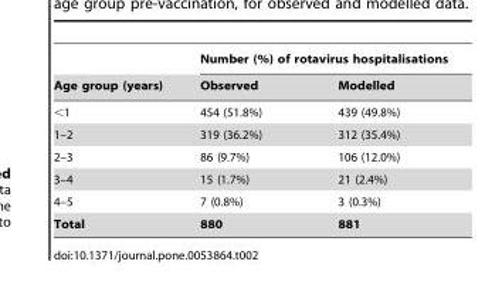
<table><thead><tr><td rowspan="2">Age group (years)</td><td colspan="2">Number (%) of rotavirus hospitalisations</td></tr><tr><td>Observed</td><td>Modelled</td></tr></thead><tbody><tr><td>&lt;1</td><td>454 (51.8%)</td><td>439 (49.8%)</td></tr><tr><td>1–2</td><td>319 (36.2%)</td><td>312 (35.4%)</td></tr><tr><td>2–3</td><td>86 (9.7%)</td><td>106 (12.0%)</td></tr><tr><td>3–4</td><td>15 (1.7%)</td><td>21 (2.4%)</td></tr><tr><td>4–5</td><td>7 (0.8%)</td><td>3 (0.3%)</td></tr><tr><td>Total</td><td>880</td><td>881</td></tr></tbody></table>